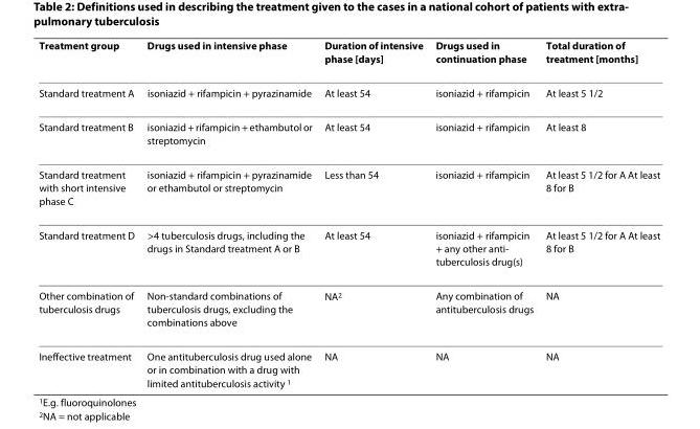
<table><thead><tr><td>Treatment group</td><td>Drugs used in intensive phase</td><td>Duration of intensive phase [days]</td><td>Drugs used in continuation phase</td><td>Total duration of treatment [months]</td></tr></thead><tbody><tr><td>Standard treatment A</td><td>isoniazid + rifampicin + pyrazinamide</td><td>At least 54</td><td>isoniazid + rifampicin</td><td>At least 5 1/2</td></tr><tr><td>Standard treatment B</td><td>isoniazid + rifampicin + ethambutol or streptomycin</td><td>At least 54</td><td>isoniazid + rifampicin</td><td>At least 8</td></tr><tr><td>Standard treatment with short intensive phase C</td><td>isoniazid + rifampicin + pyrazinamide or ethambutol or streptomycin</td><td>Less than 54</td><td>isoniazid + rifampicin</td><td>At least 5 1/2 for A At least 8 for B</td></tr><tr><td>Standard treatment D</td><td>&gt;4 tuberculosis drugs, including the drugs in Standard treatment A or B</td><td>At least 54</td><td>isoniazid + rifampicin + any other anti- tuberculosis drug(s)</td><td>At least 5 1/2 for A At least 8 for B</td></tr><tr><td>Other combination of tuberculosis drugs</td><td>Non-standard combinations of tuberculosis drugs, excluding the combinations above</td><td>NA<sup>2</sup></td><td>Any combination of antituberculosis drugs</td><td>NA</td></tr><tr><td>Ineffective treatment</td><td>One antituberculosis drug used alone or in combination with a drug with limited antituberculosis activity <sup>1</sup></td><td>NA</td><td>NA</td><td>NA</td></tr></tbody></table>